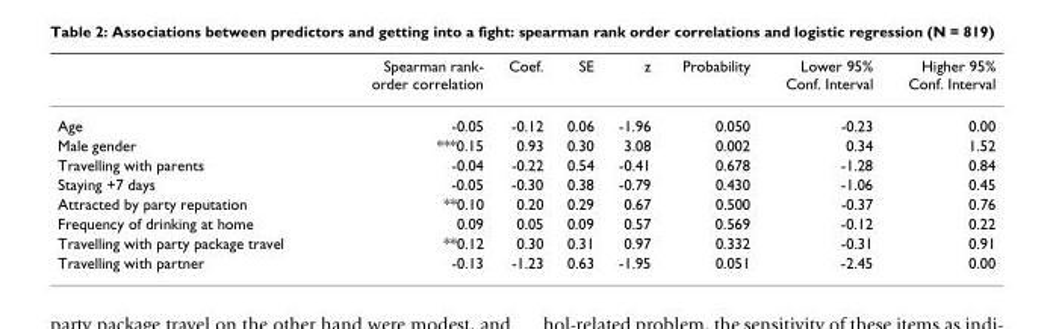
<table><thead><tr><td></td><td>Spearman rank- order correlation</td><td>Coef.</td><td>SE</td><td>z</td><td>Probability</td><td>Lower 95% Conf. Interval</td><td>Higher 95% Conf. Interval</td></tr></thead><tbody><tr><td>Age</td><td>-0.05</td><td>-0.12</td><td>0.06</td><td>-1.96</td><td>0.050</td><td>-0.23</td><td>0.00</td></tr><tr><td>Male gender</td><td>***0.15</td><td>0.93</td><td>0.30</td><td>3.08</td><td>0.002</td><td>0.34</td><td>1.52</td></tr><tr><td>Travelling with parents</td><td>-0.04</td><td>-0.22</td><td>0.54</td><td>-0.41</td><td>0.678</td><td>-1.28</td><td>0.84</td></tr><tr><td>Staying +7 days</td><td>-0.05</td><td>-0.30</td><td>0.38</td><td>-0.79</td><td>0.430</td><td>-1.06</td><td>0.45</td></tr><tr><td>Attracted by party reputation</td><td>**0.10</td><td>0.20</td><td>0.29</td><td>0.67</td><td>0.500</td><td>-0.37</td><td>0.76</td></tr><tr><td>Frequency of drinking at home</td><td>0.09</td><td>0.05</td><td>0.09</td><td>0.57</td><td>0.569</td><td>-0.12</td><td>0.22</td></tr><tr><td>Travelling with party package travel</td><td>**0.12</td><td>0.30</td><td>0.31</td><td>0.97</td><td>0.332</td><td>-0.31</td><td>0.91</td></tr><tr><td>Travelling with partner</td><td>-0.13</td><td>-1.23</td><td>0.63</td><td>-1.95</td><td>0.051</td><td>-2.45</td><td>0.00</td></tr></tbody></table>